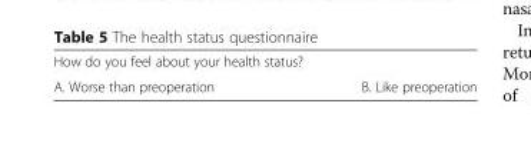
<table><tbody><tr><td colspan="2">How do you feel about your health status?</td></tr><tr><td>A. Worse than preoperation</td><td>B. Like preoperation</td></tr></tbody></table>